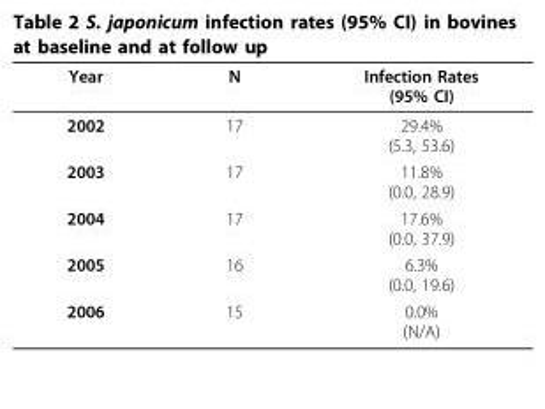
<table><thead><tr><td>Year</td><td>N</td><td>Infection Rates (95% CI)</td></tr></thead><tbody><tr><td>2002</td><td>17</td><td>29.4% (5.3, 53.6)</td></tr><tr><td>2003</td><td>17</td><td>11.8% (0.0, 28.9)</td></tr><tr><td>2004</td><td>17</td><td>17.6% (0.0, 37.9)</td></tr><tr><td>2005</td><td>16</td><td>6.3% (0.0, 19.6)</td></tr><tr><td>2006</td><td>15</td><td>0.0% (N/A)</td></tr></tbody></table>